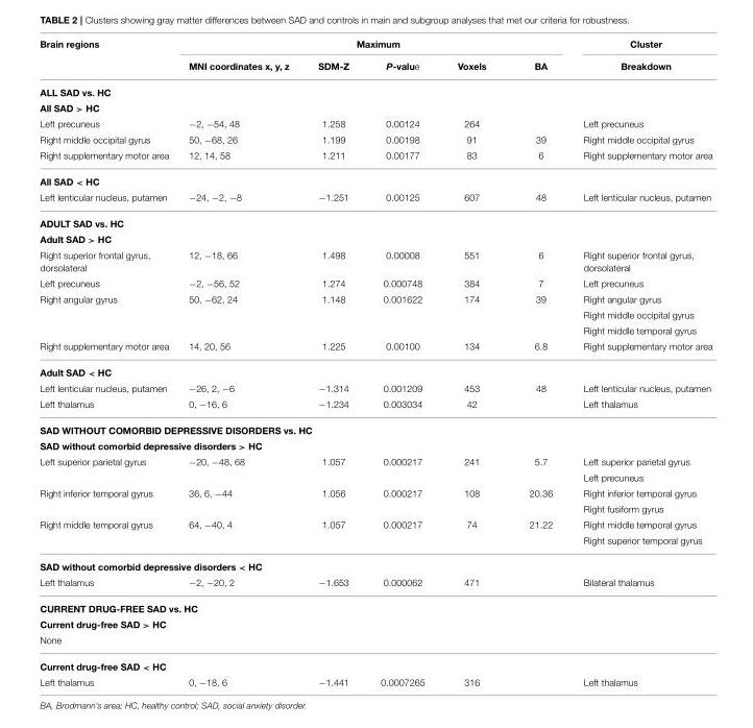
<table><thead><tr><td rowspan="2">Brain regions</td><td colspan="5">Maximum</td><td rowspan="2">Cluster Breakdown</td></tr><tr><td>MNI coordinates x, y, z</td><td>SDM-Z</td><td>P-value</td><td>Voxels</td><td>BA</td></tr></thead><tbody><tr><td colspan="7">ALL SAD vs. HC</td></tr><tr><td colspan="7">All SAD &gt; HC</td></tr><tr><td>Left precuneus</td><td>−2, −54, 48</td><td>1.258</td><td>0.00124</td><td>264</td><td></td><td>Left precuneus</td></tr><tr><td>Right middle occipital gyrus</td><td>50, −68, 26</td><td>1.199</td><td>0.00198</td><td>91</td><td>39</td><td>Right middle occipital gyrus</td></tr><tr><td>Right supplementary motor area</td><td>12, 14, 58</td><td>1.211</td><td>0.00177</td><td>83</td><td>6</td><td>Right supplementary motor area</td></tr><tr><td colspan="7">All SAD &lt; HC</td></tr><tr><td>Left lenticular nucleus, putamen</td><td>−24, −2, −8</td><td>−1.251</td><td>0.00125</td><td>607</td><td>48</td><td>Left lenticular nucleus, putamen</td></tr><tr><td colspan="7">ADULT SAD vs. HC</td></tr><tr><td colspan="7">Adult SAD &gt; HC</td></tr><tr><td>Right superior frontal gyrus, dorsolateral</td><td>12, −18, 66</td><td>1.498</td><td>0.00008</td><td>551</td><td>6</td><td>Right superior frontal gyrus, dorsolateral</td></tr><tr><td>Left precuneus</td><td>−2, −56, 52</td><td>1.274</td><td>0.000748</td><td>384</td><td>7</td><td>Left precuneus</td></tr><tr><td rowspan="3">Right angular gyrus</td><td>50, −62, 24</td><td>1.148</td><td>0.001622</td><td>174</td><td>39</td><td>Right angular gyrus</td></tr><tr><td></td><td></td><td></td><td></td><td></td><td>Right middle occipital gyrus</td></tr><tr><td></td><td></td><td></td><td></td><td></td><td>Right middle temporal gyrus</td></tr><tr><td>Right supplementary motor area</td><td>14, 20, 56</td><td>1.225</td><td>0.00100</td><td>134</td><td>6.8</td><td>Right supplementary motor area</td></tr><tr><td colspan="7">Adult SAD &lt; HC</td></tr><tr><td>Left lenticular nucleus, putamen</td><td>−26, 2, −6</td><td>−1.314</td><td>0.001209</td><td>453</td><td>48</td><td>Left lenticular nucleus, putamen</td></tr><tr><td>Left thalamus</td><td>0, −16, 6</td><td>−1.234</td><td>0.003034</td><td>42</td><td></td><td>Left thalamus</td></tr><tr><td colspan="7">SAD WITHOUT COMORBID DEPRESSIVE DISORDERS vs. HC</td></tr><tr><td colspan="7">SAD without comorbid depressive disorders &gt; HC</td></tr><tr><td rowspan="2">Left superior parietal gyrus</td><td>−20, −48, 68</td><td>1.057</td><td>0.000217</td><td>241</td><td>5.7</td><td>Left superior parietal gyrus</td></tr><tr><td></td><td></td><td></td><td></td><td></td><td>Left precuneus</td></tr><tr><td rowspan="2">Right inferior temporal gyrus</td><td>36, 6, −44</td><td>1.056</td><td>0.000217</td><td>108</td><td>20.36</td><td>Right inferior temporal gyrus</td></tr><tr><td></td><td></td><td></td><td></td><td></td><td>Right fusiform gyrus</td></tr><tr><td rowspan="2">Right middle temporal gyrus</td><td>64, −40, 4</td><td>1.057</td><td>0.000217</td><td>74</td><td>21.22</td><td>Right middle temporal gyrus</td></tr><tr><td></td><td></td><td></td><td></td><td></td><td>Right superior temporal gyrus</td></tr><tr><td colspan="7">SAD without comorbid depressive disorders &lt; HC</td></tr><tr><td>Left thalamus</td><td>−2, −20, 2</td><td>−1.653</td><td>0.000062</td><td>471</td><td></td><td>Bilateral thalamus</td></tr><tr><td colspan="7">CURRENT DRUG-FREE SAD vs. HC</td></tr><tr><td colspan="7">Current drug-free SAD &gt; HC</td></tr><tr><td colspan="7">None</td></tr><tr><td colspan="7">Current drug-free SAD &lt; HC</td></tr><tr><td>Left thalamus</td><td>0, −18, 6</td><td>−1.441</td><td>0.0007265</td><td>316</td><td></td><td>Left thalamus</td></tr></tbody></table>